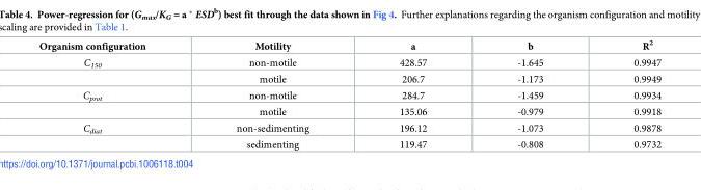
<table><thead><tr><td>Organism configuration</td><td>Motility</td><td>a</td><td>b</td><td>R<sup>2</sup></td></tr></thead><tbody><tr><td rowspan="2">C<sub>150</sub></td><td>non-motile</td><td>428.57</td><td>-1.645</td><td>0.9947</td></tr><tr><td>motile</td><td>206.7</td><td>-1.173</td><td>0.9949</td></tr><tr><td rowspan="2">C<sub>prot</sub></td><td>non-motile</td><td>284.7</td><td>-1.459</td><td>0.9934</td></tr><tr><td>motile</td><td>135.06</td><td>-0.979</td><td>0.9918</td></tr><tr><td rowspan="2">C<sub>diat</sub></td><td>non-sedimenting</td><td>196.12</td><td>-1.073</td><td>0.9878</td></tr><tr><td>sedimenting</td><td>119.47</td><td>-0.808</td><td>0.9732</td></tr></tbody></table>